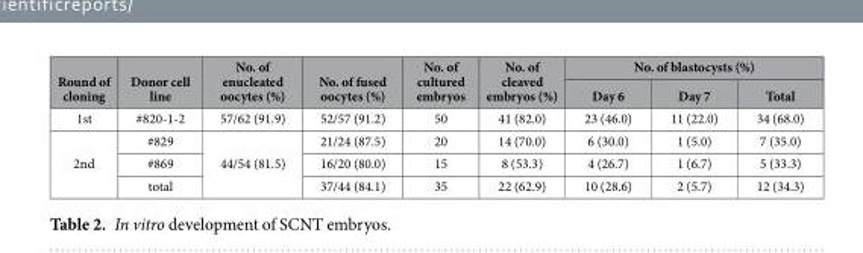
<table><thead><tr><td rowspan="2">Round of cloning</td><td rowspan="2">Donor cell line</td><td rowspan="2">No. of enucleated oocytes (%)</td><td rowspan="2">No. of fused oocytes (%)</td><td rowspan="2">No. of cultured embryos</td><td rowspan="2">No. of cleaved embryos (%)</td><td colspan="3">No. of blastocysts (%)</td></tr><tr><td>Day 6</td><td>Day 7</td><td>Total</td></tr></thead><tbody><tr><td>1st</td><td>#820-1-2</td><td>57/62 (91.9)</td><td>52/57 (91.2)</td><td>50</td><td>41 (82.0)</td><td>23 (46.0)</td><td>11 (22.0)</td><td>34 (68.0)</td></tr><tr><td rowspan="3">2nd</td><td>#829</td><td rowspan="3">44/54 (81.5)</td><td>21/24 (87.5)</td><td>20</td><td>14 (70.0)</td><td>6 (30.0)</td><td>1 (5.0)</td><td>7 (35.0)</td></tr><tr><td>#869</td><td>16/20 (80.0)</td><td>15</td><td>8 (53.3)</td><td>4 (26.7)</td><td>1 (6.7)</td><td>5 (33.3)</td></tr><tr><td>total</td><td>37/44 (84.1)</td><td>35</td><td>22 (62.9)</td><td>10 (28.6)</td><td>2 (5.7)</td><td>12 (34.3)</td></tr></tbody></table>